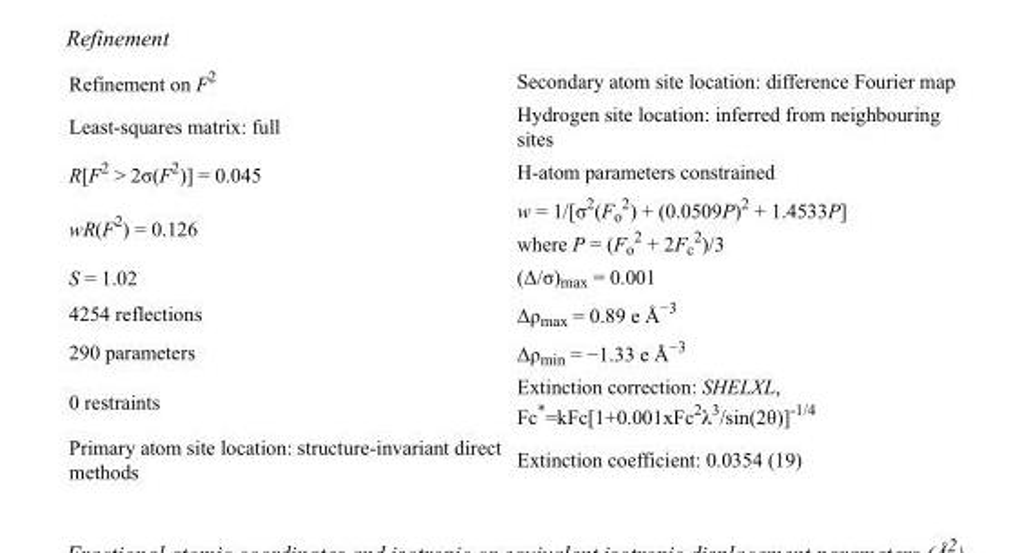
<table><tbody><tr><td>Refinement on F<sup>2</sup></td><td>Secondary atom site location: difference Fourier map</td></tr><tr><td>Least-squares matrix: full</td><td>Hydrogen site location: inferred from neighbouring sites</td></tr><tr><td>R[F<sup>2</sup> &gt; 2σ(F<sup>2</sup>)] = 0.045</td><td>H-atom parameters constrained</td></tr><tr><td>wR(F<sup>2</sup>) = 0.126</td><td>w = 1/[σ<sup>2</sup>(F<sub>o</sub> <sup>2</sup>) + (0.0509P)<sup>2</sup> + 1.4533P] where P = (F<sub>o</sub> <sup>2</sup> + 2F<sub>c</sub> <sup>2</sup>)/3</td></tr><tr><td>S = 1.02</td><td>(Δ/σ)<sub>max</sub> = 0.001</td></tr><tr><td>4254 reflections</td><td>Δρ<sub>max</sub> = 0.89 e Å<sup>−3</sup></td></tr><tr><td>290 parameters</td><td>Δρ<sub>min</sub> = −1.33 e Å<sup>−3</sup></td></tr><tr><td>0 restraints</td><td>Extinction correction: SHELXL, Fc*=kFc[1+0.001xFc<sup>2</sup>λ<sup>3</sup>/sin(2θ)]<sup>-1/4</sup></td></tr><tr><td>Primary atom site location: structure-invariant direct methods</td><td>Extinction coefficient: 0.0354 (19)</td></tr></tbody></table>